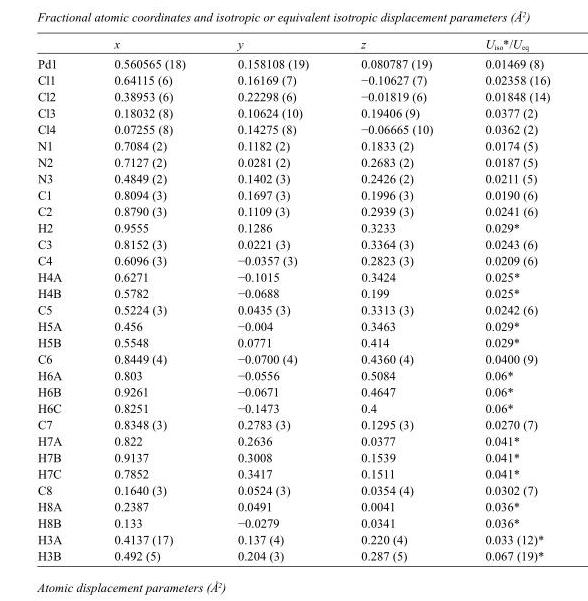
<table><thead><tr><td></td><td>x</td><td>y</td><td>z</td><td>U<sub>iso</sub>*/U<sub>eq</sub></td></tr></thead><tbody><tr><td>Pd1</td><td>0.560565 (18)</td><td>0.158108 (19)</td><td>0.080787 (19)</td><td>0.01469 (8)</td></tr><tr><td>Cl1</td><td>0.64115 (6)</td><td>0.16169 (7)</td><td>−0.10627 (7)</td><td>0.02358 (16)</td></tr><tr><td>Cl2</td><td>0.38953 (6)</td><td>0.22298 (6)</td><td>−0.01819 (6)</td><td>0.01848 (14)</td></tr><tr><td>Cl3</td><td>0.18032 (8)</td><td>0.10624 (10)</td><td>0.19406 (9)</td><td>0.0377 (2)</td></tr><tr><td>Cl4</td><td>0.07255 (8)</td><td>0.14275 (8)</td><td>−0.06665 (10)</td><td>0.0362 (2)</td></tr><tr><td>N1</td><td>0.7084 (2)</td><td>0.1182 (2)</td><td>0.1833 (2)</td><td>0.0174 (5)</td></tr><tr><td>N2</td><td>0.7127 (2)</td><td>0.0281 (2)</td><td>0.2683 (2)</td><td>0.0187 (5)</td></tr><tr><td>N3</td><td>0.4849 (2)</td><td>0.1402 (3)</td><td>0.2426 (2)</td><td>0.0211 (5)</td></tr><tr><td>C1</td><td>0.8094 (3)</td><td>0.1697 (3)</td><td>0.1996 (3)</td><td>0.0190 (6)</td></tr><tr><td>C2</td><td>0.8790 (3)</td><td>0.1109 (3)</td><td>0.2939 (3)</td><td>0.0241 (6)</td></tr><tr><td>H2</td><td>0.9555</td><td>0.1286</td><td>0.3233</td><td>0.029*</td></tr><tr><td>C3</td><td>0.8152 (3)</td><td>0.0221 (3)</td><td>0.3364 (3)</td><td>0.0243 (6)</td></tr><tr><td>C4</td><td>0.6096 (3)</td><td>−0.0357 (3)</td><td>0.2823 (3)</td><td>0.0209 (6)</td></tr><tr><td>H4A</td><td>0.6271</td><td>−0.1015</td><td>0.3424</td><td>0.025*</td></tr><tr><td>H4B</td><td>0.5782</td><td>−0.0688</td><td>0.199</td><td>0.025*</td></tr><tr><td>C5</td><td>0.5224 (3)</td><td>0.0435 (3)</td><td>0.3313 (3)</td><td>0.0242 (6)</td></tr><tr><td>H5A</td><td>0.456</td><td>−0.004</td><td>0.3463</td><td>0.029*</td></tr><tr><td>H5B</td><td>0.5548</td><td>0.0771</td><td>0.414</td><td>0.029*</td></tr><tr><td>C6</td><td>0.8449 (4)</td><td>−0.0700 (4)</td><td>0.4360 (4)</td><td>0.0400 (9)</td></tr><tr><td>H6A</td><td>0.803</td><td>−0.0556</td><td>0.5084</td><td>0.06*</td></tr><tr><td>H6B</td><td>0.9261</td><td>−0.0671</td><td>0.4647</td><td>0.06*</td></tr><tr><td>H6C</td><td>0.8251</td><td>−0.1473</td><td>0.4</td><td>0.06*</td></tr><tr><td>C7</td><td>0.8348 (3)</td><td>0.2783 (3)</td><td>0.1295 (3)</td><td>0.0270 (7)</td></tr><tr><td>H7A</td><td>0.822</td><td>0.2636</td><td>0.0377</td><td>0.041*</td></tr><tr><td>H7B</td><td>0.9137</td><td>0.3008</td><td>0.1539</td><td>0.041*</td></tr><tr><td>H7C</td><td>0.7852</td><td>0.3417</td><td>0.1511</td><td>0.041*</td></tr><tr><td>C8</td><td>0.1640 (3)</td><td>0.0524 (3)</td><td>0.0354 (4)</td><td>0.0302 (7)</td></tr><tr><td>H8A</td><td>0.2387</td><td>0.0491</td><td>0.0041</td><td>0.036*</td></tr><tr><td>H8B</td><td>0.133</td><td>−0.0279</td><td>0.0341</td><td>0.036*</td></tr><tr><td>H3A</td><td>0.4137 (17)</td><td>0.137 (4)</td><td>0.220 (4)</td><td>0.033 (12)*</td></tr><tr><td>H3B</td><td>0.492 (5)</td><td>0.204 (3)</td><td>0.287 (5)</td><td>0.067 (19)*</td></tr></tbody></table>